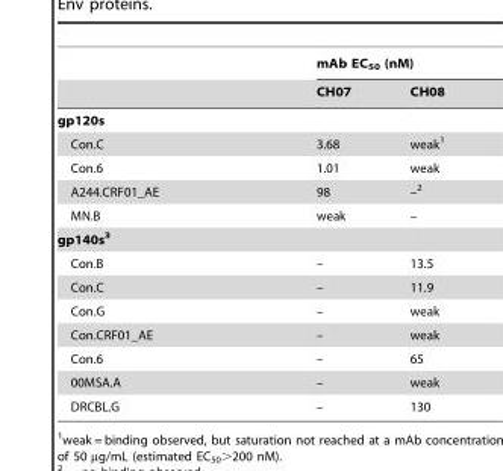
<table><thead><tr><td rowspan="2"></td><td colspan="2">mAb EC<sub>50</sub> (nM)</td></tr><tr><td>CH07</td><td>CH08</td></tr></thead><tbody><tr><td colspan="3">gp120s</td></tr><tr><td>Con.C</td><td>3.68</td><td>weak<sup>1</sup></td></tr><tr><td>Con.6</td><td>1.01</td><td>weak</td></tr><tr><td>A244.CRF01_AE</td><td>98</td><td>–2</td></tr><tr><td>MN.B</td><td>weak</td><td>–</td></tr><tr><td colspan="3">gp140s3</td></tr><tr><td>Con.B</td><td>–</td><td>13.5</td></tr><tr><td>Con.C</td><td>–</td><td>11.9</td></tr><tr><td>Con.G</td><td>–</td><td>weak</td></tr><tr><td>Con.CRF01_AE</td><td>–</td><td>weak</td></tr><tr><td>Con.6</td><td>–</td><td>65</td></tr><tr><td>00MSA.A</td><td>–</td><td>weak</td></tr><tr><td>DRCBL.G</td><td>–</td><td>130</td></tr></tbody></table>